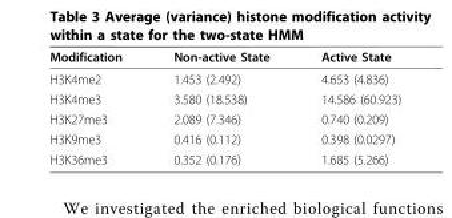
<table><thead><tr><td>Modification</td><td>Non-active State</td><td>Active State</td></tr></thead><tbody><tr><td>H3K4me2</td><td>1.453 (2.492)</td><td>4.653 (4.836)</td></tr><tr><td>H3K4me3</td><td>3.580 (18.538)</td><td>14.586 (60.923)</td></tr><tr><td>H3K27me3</td><td>2.089 (7.346)</td><td>0.740 (0.209)</td></tr><tr><td>H3K9me3</td><td>0.416 (0.112)</td><td>0.398 (0.0297)</td></tr><tr><td>H3K36me3</td><td>0.352 (0.176)</td><td>1.685 (5.266)</td></tr></tbody></table>